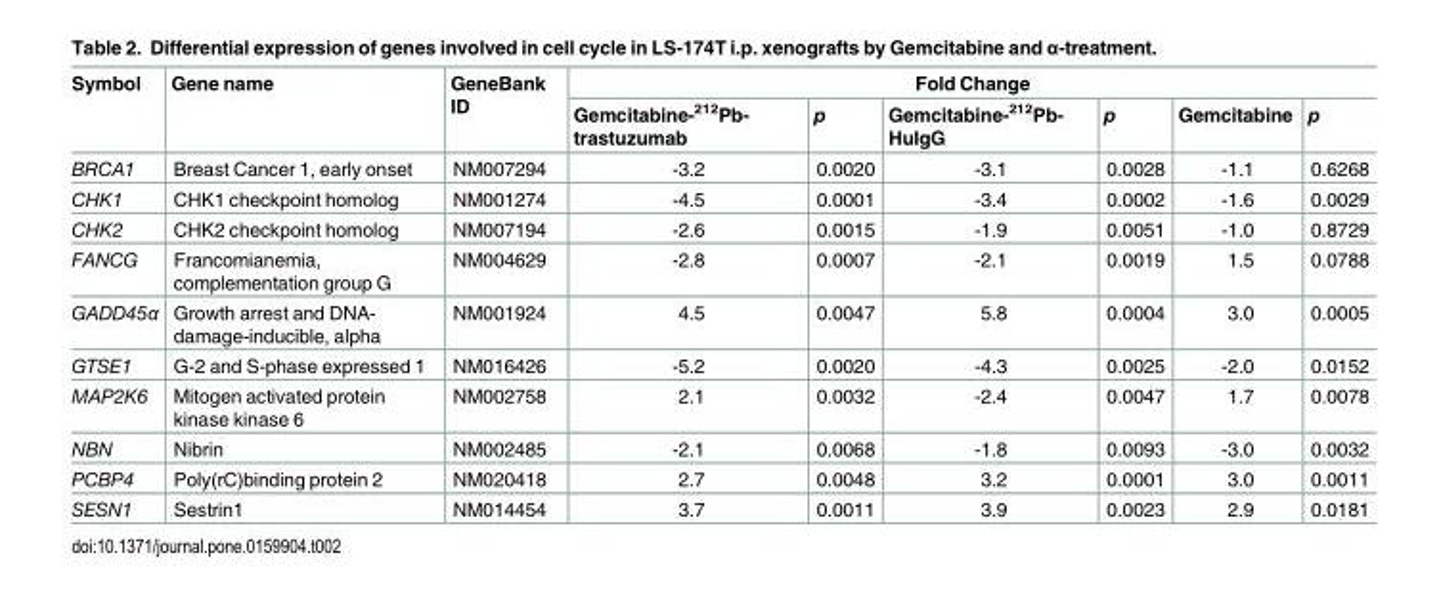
<table><thead><tr><td rowspan="2">Symbol</td><td rowspan="2">Gene name</td><td rowspan="2">GeneBank ID</td><td colspan="6">Fold Change</td></tr><tr><td>Gemcitabine-<sup>212</sup>Pb- trastuzumab</td><td>p</td><td>Gemcitabine-<sup>212</sup>Pb- HuIgG</td><td>p</td><td>Gemcitabine</td><td>p</td></tr></thead><tbody><tr><td>BRCA1</td><td>Breast Cancer 1, early onset</td><td>NM007294</td><td>-3.2</td><td>0.0020</td><td>-3.1</td><td>0.0028</td><td>-1.1</td><td>0.6268</td></tr><tr><td>CHK1</td><td>CHK1 checkpoint homolog</td><td>NM001274</td><td>-4.5</td><td>0.0001</td><td>-3.4</td><td>0.0002</td><td>-1.6</td><td>0.0029</td></tr><tr><td>CHK2</td><td>CHK2 checkpoint homolog</td><td>NM007194</td><td>-2.6</td><td>0.0015</td><td>-1.9</td><td>0.0051</td><td>-1.0</td><td>0.8729</td></tr><tr><td>FANCG</td><td>Francomianemia, complementation group G</td><td>NM004629</td><td>-2.8</td><td>0.0007</td><td>-2.1</td><td>0.0019</td><td>1.5</td><td>0.0788</td></tr><tr><td>GADD45α</td><td>Growth arrest and DNA- damage-inducible, alpha</td><td>NM001924</td><td>4.5</td><td>0.0047</td><td>5.8</td><td>0.0004</td><td>3.0</td><td>0.0005</td></tr><tr><td>GTSE1</td><td>G-2 and S-phase expressed 1</td><td>NM016426</td><td>-5.2</td><td>0.0020</td><td>-4.3</td><td>0.0025</td><td>-2.0</td><td>0.0152</td></tr><tr><td>MAP2K6</td><td>Mitogen activated protein kinase kinase 6</td><td>NM002758</td><td>2.1</td><td>0.0032</td><td>-2.4</td><td>0.0047</td><td>1.7</td><td>0.0078</td></tr><tr><td>NBN</td><td>Nibrin</td><td>NM002485</td><td>-2.1</td><td>0.0068</td><td>-1.8</td><td>0.0093</td><td>-3.0</td><td>0.0032</td></tr><tr><td>PCBP4</td><td>Poly(rC)binding protein 2</td><td>NM020418</td><td>2.7</td><td>0.0048</td><td>3.2</td><td>0.0001</td><td>3.0</td><td>0.0011</td></tr><tr><td>SESN1</td><td>Sestrin1</td><td>NM014454</td><td>3.7</td><td>0.0011</td><td>3.9</td><td>0.0023</td><td>2.9</td><td>0.0181</td></tr></tbody></table>